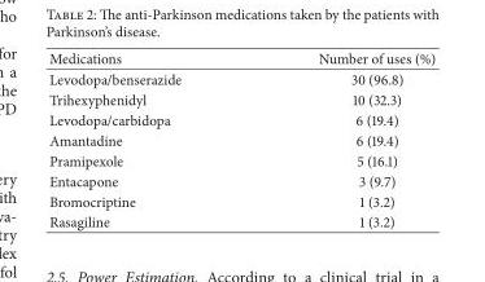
<table><thead><tr><td>Medications</td><td>Number of uses (%)</td></tr></thead><tbody><tr><td>Levodopa/benserazide</td><td>30 (96.8)</td></tr><tr><td>Trihexyphenidyl</td><td>10 (32.3)</td></tr><tr><td>Levodopa/carbidopa</td><td>6 (19.4)</td></tr><tr><td>Amantadine</td><td>6 (19.4)</td></tr><tr><td>Pramipexole</td><td>5 (16.1)</td></tr><tr><td>Entacapone</td><td>3 (9.7)</td></tr><tr><td>Bromocriptine</td><td>1 (3.2)</td></tr><tr><td>Rasagiline</td><td>1 (3.2)</td></tr></tbody></table>